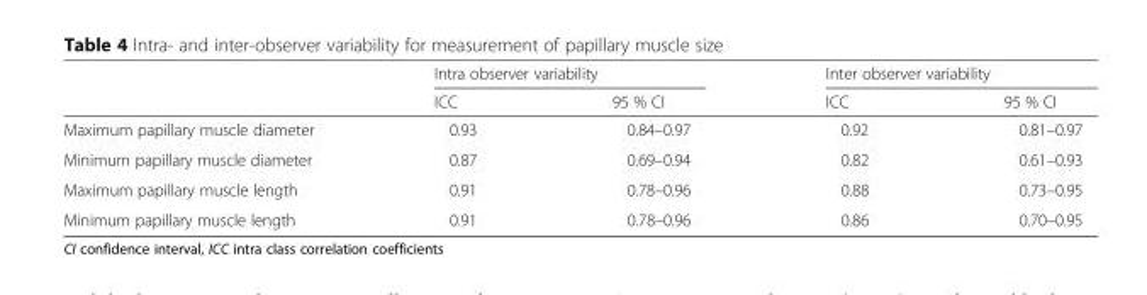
<table><thead><tr><td rowspan="2"></td><td colspan="2">Intra observer variability</td><td colspan="2">Inter observer variability</td></tr><tr><td>ICC</td><td>95 % CI</td><td>ICC</td><td>95 % CI</td></tr></thead><tbody><tr><td>Maximum papillary muscle diameter</td><td>0.93</td><td>0.84–0.97</td><td>0.92</td><td>0.81–0.97</td></tr><tr><td>Minimum papillary muscle diameter</td><td>0.87</td><td>0.69–0.94</td><td>0.82</td><td>0.61–0.93</td></tr><tr><td>Maximum papillary muscle length</td><td>0.91</td><td>0.78–0.96</td><td>0.88</td><td>0.73–0.95</td></tr><tr><td>Minimum papillary muscle length</td><td>0.91</td><td>0.78–0.96</td><td>0.86</td><td>0.70–0.95</td></tr></tbody></table>